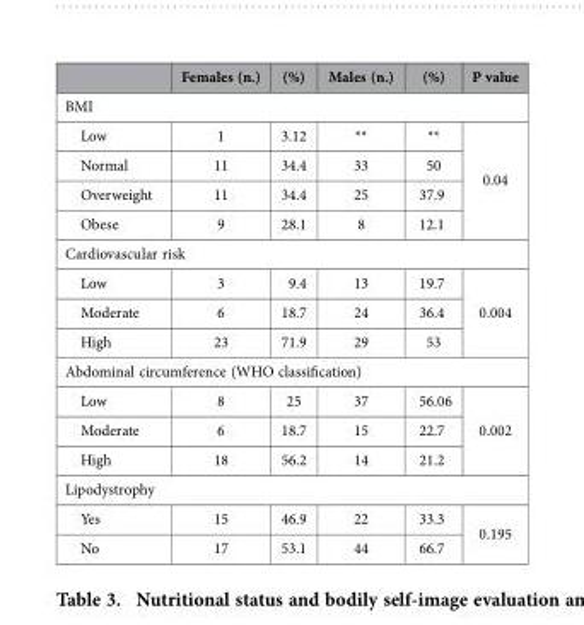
<table><thead><tr><td></td><td>Females (n.)</td><td>(%)</td><td>Males (n.)</td><td>(%)</td><td>P value</td></tr></thead><tbody><tr><td colspan="6">BMI</td></tr><tr><td>Low</td><td>1</td><td>3.12</td><td>**</td><td>**</td><td rowspan="4">0.04</td></tr><tr><td>Normal</td><td>11</td><td>34.4</td><td>33</td><td>50</td></tr><tr><td>Overweight</td><td>11</td><td>34.4</td><td>25</td><td>37.9</td></tr><tr><td>Obese</td><td>9</td><td>28.1</td><td>8</td><td>12.1</td></tr><tr><td colspan="6">Cardiovascular risk</td></tr><tr><td>Low</td><td>3</td><td>9.4</td><td>13</td><td>19.7</td><td rowspan="3">0.004</td></tr><tr><td>Moderate</td><td>6</td><td>18.7</td><td>24</td><td>36.4</td></tr><tr><td>High</td><td>23</td><td>71.9</td><td>29</td><td>53</td></tr><tr><td colspan="6">Abdominal circumference (WHO classification)</td></tr><tr><td>Low</td><td>8</td><td>25</td><td>37</td><td>56.06</td><td rowspan="3">0.002</td></tr><tr><td>Moderate</td><td>6</td><td>18.7</td><td>15</td><td>22.7</td></tr><tr><td>High</td><td>18</td><td>56.2</td><td>14</td><td>21.2</td></tr><tr><td colspan="6">Lipodystrophy</td></tr><tr><td>Yes</td><td>15</td><td>46.9</td><td>22</td><td>33.3</td><td rowspan="2">0.195</td></tr><tr><td>No</td><td>17</td><td>53.1</td><td>44</td><td>66.7</td></tr></tbody></table>